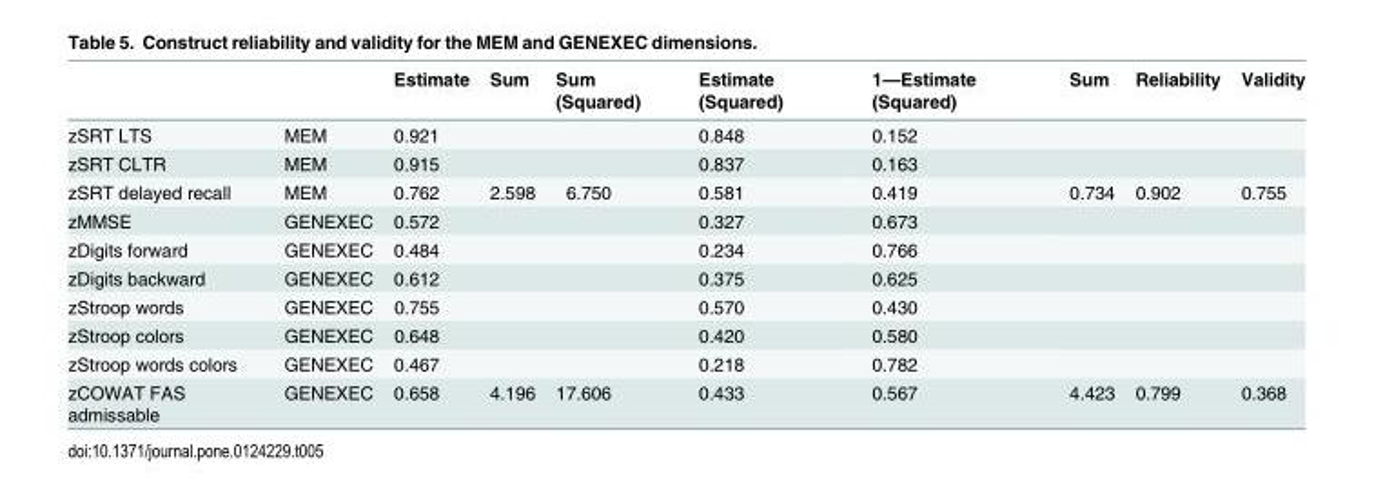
<table><thead><tr><td></td><td></td><td>Estimate</td><td>Sum</td><td>Sum (Squared)</td><td>Estimate (Squared)</td><td>1—Estimate (Squared)</td><td>Sum</td><td>Reliability</td><td>Validity</td></tr></thead><tbody><tr><td>zSRT LTS</td><td>MEM</td><td>0.921</td><td></td><td></td><td>0.848</td><td>0.152</td><td></td><td></td><td></td></tr><tr><td>zSRT CLTR</td><td>MEM</td><td>0.915</td><td></td><td></td><td>0.837</td><td>0.163</td><td></td><td></td><td></td></tr><tr><td>zSRT delayed recall</td><td>MEM</td><td>0.762</td><td>2.598</td><td>6.750</td><td>0.581</td><td>0.419</td><td>0.734</td><td>0.902</td><td>0.755</td></tr><tr><td>zMMSE</td><td>GENEXEC</td><td>0.572</td><td></td><td></td><td>0.327</td><td>0.673</td><td></td><td></td><td></td></tr><tr><td>zDigits forward</td><td>GENEXEC</td><td>0.484</td><td></td><td></td><td>0.234</td><td>0.766</td><td></td><td></td><td></td></tr><tr><td>zDigits backward</td><td>GENEXEC</td><td>0.612</td><td></td><td></td><td>0.375</td><td>0.625</td><td></td><td></td><td></td></tr><tr><td>zStroop words</td><td>GENEXEC</td><td>0.755</td><td></td><td></td><td>0.570</td><td>0.430</td><td></td><td></td><td></td></tr><tr><td>zStroop colors</td><td>GENEXEC</td><td>0.648</td><td></td><td></td><td>0.420</td><td>0.580</td><td></td><td></td><td></td></tr><tr><td>zStroop words colors</td><td>GENEXEC</td><td>0.467</td><td></td><td></td><td>0.218</td><td>0.782</td><td></td><td></td><td></td></tr><tr><td>zCOWAT FAS admissable</td><td>GENEXEC</td><td>0.658</td><td>4.196</td><td>17.606</td><td>0.433</td><td>0.567</td><td>4.423</td><td>0.799</td><td>0.368</td></tr></tbody></table>